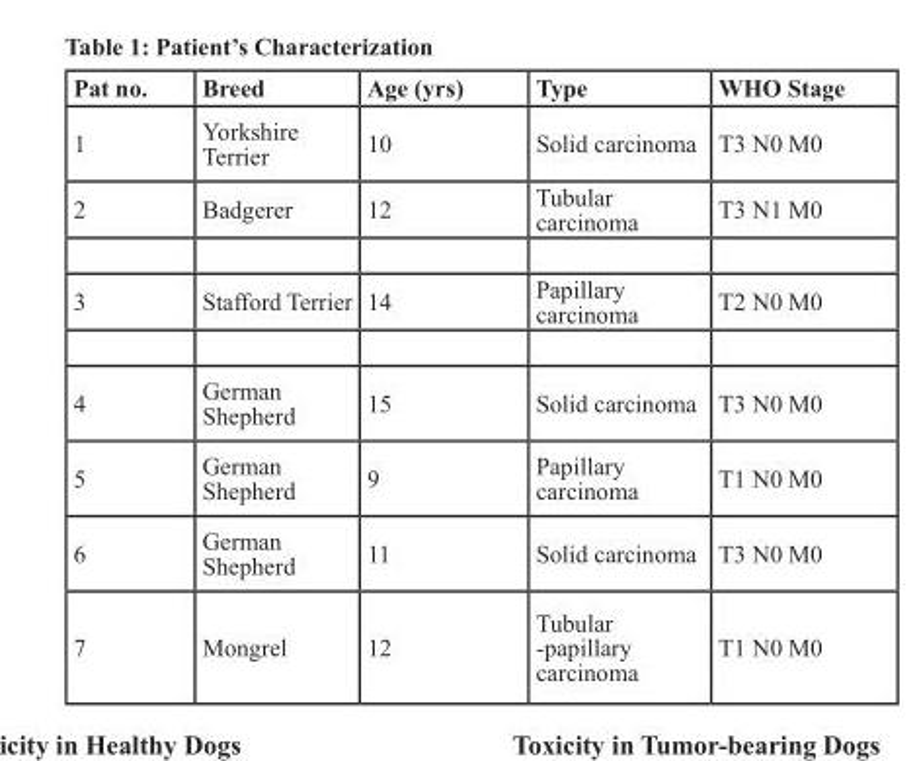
<table><thead><tr><td>Pat no.</td><td>Breed</td><td>Age (yrs)</td><td>Type</td><td>WHO Stage</td></tr></thead><tbody><tr><td>1</td><td>Yorkshire Terrier</td><td>10</td><td>Solid carcinoma</td><td>T3 N0 M0</td></tr><tr><td>2</td><td>Badgerer</td><td>12</td><td>Tubular carcinoma</td><td>T3 N1 M0</td></tr><tr><td>3</td><td>Stafford Terrier</td><td>14</td><td>Papillary carcinoma</td><td>T2 N0 M0</td></tr><tr><td>4</td><td>German Shepherd</td><td>15</td><td>Solid carcinoma</td><td>T3 N0 M0</td></tr><tr><td>5</td><td>German Shepherd</td><td>9</td><td>Papillary carcinoma</td><td>T1 N0 M0</td></tr><tr><td>6</td><td>German Shepherd</td><td>11</td><td>Solid carcinoma</td><td>T3 N0 M0</td></tr><tr><td>7</td><td>Mongrel</td><td>12</td><td>Tubular -papillary carcinoma</td><td>T1 N0 M0</td></tr></tbody></table>